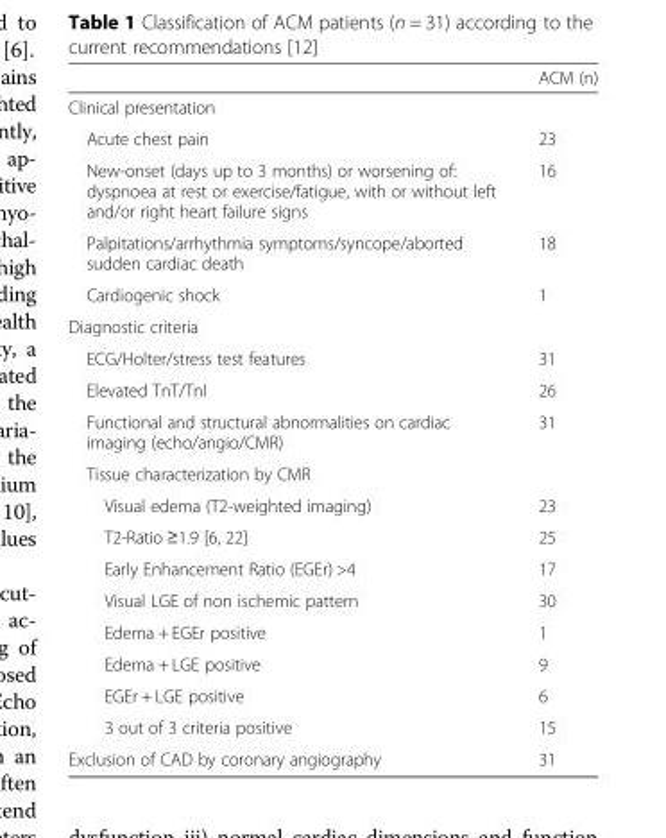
<table><thead><tr><td></td><td>ACM (n)</td></tr></thead><tbody><tr><td colspan="2">Clinical presentation</td></tr><tr><td>Acute chest pain</td><td>23</td></tr><tr><td>New-onset (days up to 3 months) or worsening of: dyspnoea at rest or exercise/fatigue, with or without left and/or right heart failure signs</td><td>16</td></tr><tr><td>Palpitations/arrhythmia symptoms/syncope/aborted sudden cardiac death</td><td>18</td></tr><tr><td>Cardiogenic shock</td><td>1</td></tr><tr><td colspan="2">Diagnostic criteria</td></tr><tr><td>ECG/Holter/stress test features</td><td>31</td></tr><tr><td>Elevated TnT/TnI</td><td>26</td></tr><tr><td>Functional and structural abnormalities on cardiac imaging (echo/angio/CMR)</td><td>31</td></tr><tr><td colspan="2">Tissue characterization by CMR</td></tr><tr><td>Visual edema (T2-weighted imaging)</td><td>23</td></tr><tr><td>T2-Ratio ≥1.9 [6, 22]</td><td>25</td></tr><tr><td>Early Enhancement Ratio (EGEr) &gt;4</td><td>17</td></tr><tr><td>Visual LGE of non ischemic pattern</td><td>30</td></tr><tr><td>Edema + EGEr positive</td><td>1</td></tr><tr><td>Edema + LGE positive</td><td>9</td></tr><tr><td>EGEr + LGE positive</td><td>6</td></tr><tr><td>3 out of 3 criteria positive</td><td>15</td></tr><tr><td>Exclusion of CAD by coronary angiography</td><td>31</td></tr></tbody></table>